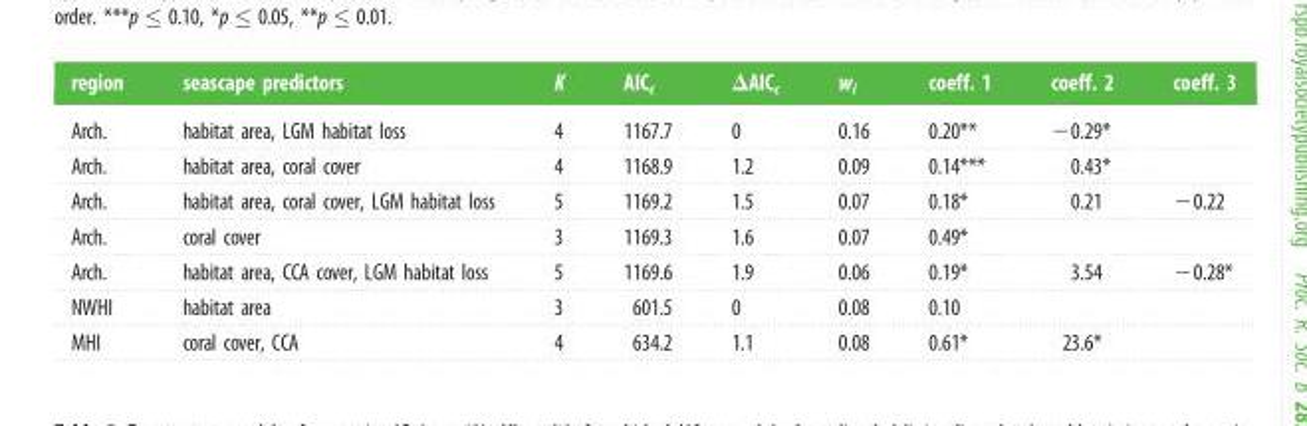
<table><thead><tr><td>region</td><td>seascape predictors</td><td>K</td><td>AIC<sub>c</sub></td><td>ΔAIC<sub>c</sub></td><td>w<sub>i</sub></td><td>coeff. 1</td><td>coeff. 2</td><td>coeff. 3</td></tr></thead><tbody><tr><td>Arch.</td><td>habitat area, LGM habitat loss</td><td>4</td><td>1167.7</td><td>0</td><td>0.16</td><td>0.20**</td><td>−0.29*</td><td></td></tr><tr><td>Arch.</td><td>habitat area, coral cover</td><td>4</td><td>1168.9</td><td>1.2</td><td>0.09</td><td>0.14***</td><td>0.43*</td><td></td></tr><tr><td>Arch.</td><td>habitat area, coral cover, LGM habitat loss</td><td>5</td><td>1169.2</td><td>1.5</td><td>0.07</td><td>0.18*</td><td>0.21</td><td>−0.22</td></tr><tr><td>Arch.</td><td>coral cover</td><td>3</td><td>1169.3</td><td>1.6</td><td>0.07</td><td>0.49*</td><td></td><td></td></tr><tr><td>Arch.</td><td>habitat area, CCA cover, LGM habitat loss</td><td>5</td><td>1169.6</td><td>1.9</td><td>0.06</td><td>0.19*</td><td>3.54</td><td>−0.28*</td></tr><tr><td>NWHI</td><td>habitat area</td><td>3</td><td>601.5</td><td>0</td><td>0.08</td><td>0.10</td><td></td><td></td></tr><tr><td>MHI</td><td>coral cover, CCA</td><td>4</td><td>634.2</td><td>1.1</td><td>0.08</td><td>0.61*</td><td>23.6*</td><td></td></tr></tbody></table>